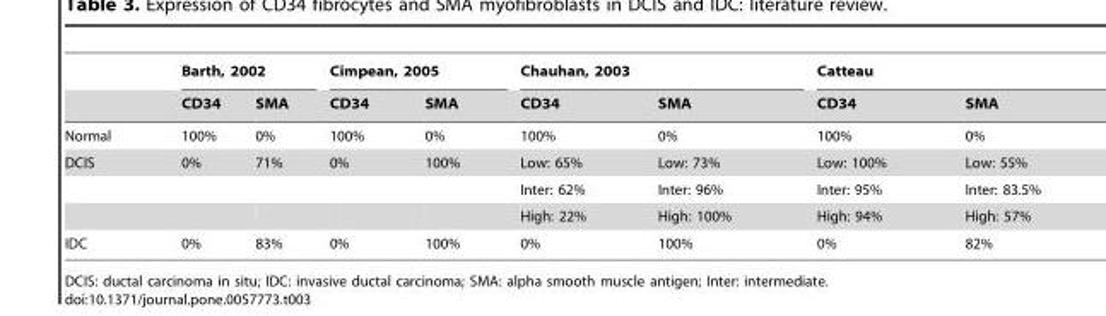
<table><thead><tr><td rowspan="2"></td><td colspan="2">Barth, 2002</td><td colspan="2">Cimpean, 2005</td><td colspan="2">Chauhan, 2003</td><td colspan="2">Catteau</td></tr><tr><td>CD34</td><td>SMA</td><td>CD34</td><td>SMA</td><td>CD34</td><td>SMA</td><td>CD34</td><td>SMA</td></tr></thead><tbody><tr><td>Normal</td><td>100%</td><td>0%</td><td>100%</td><td>0%</td><td>100%</td><td>0%</td><td>100%</td><td>0%</td></tr><tr><td rowspan="3">DCIS</td><td>0%</td><td>71%</td><td>0%</td><td>100%</td><td>Low: 65%</td><td>Low: 73%</td><td>Low: 100%</td><td>Low: 55%</td></tr><tr><td></td><td></td><td></td><td></td><td>Inter: 62%</td><td>Inter: 96%</td><td>Inter: 95%</td><td>Inter: 83.5%</td></tr><tr><td></td><td></td><td></td><td></td><td>High: 22%</td><td>High: 100%</td><td>High: 94%</td><td>High: 57%</td></tr><tr><td>IDC</td><td>0%</td><td>83%</td><td>0%</td><td>100%</td><td>0%</td><td>100%</td><td>0%</td><td>82%</td></tr></tbody></table>